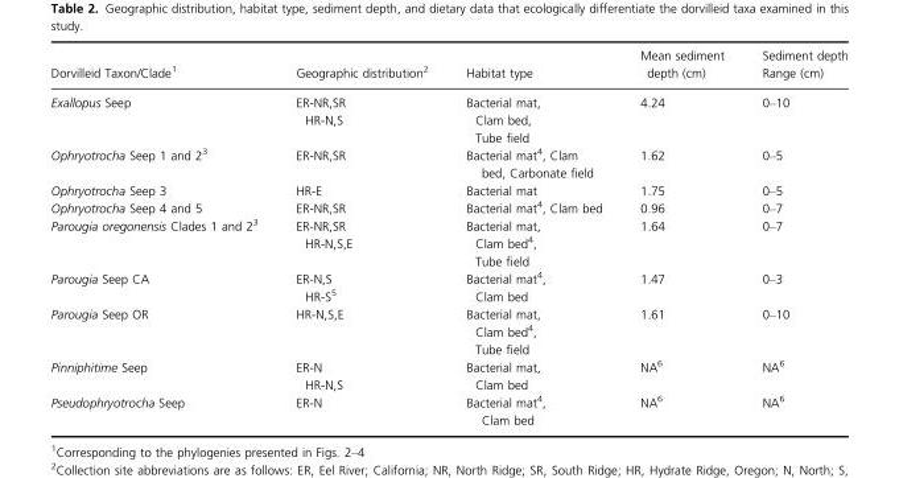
<table><thead><tr><td>Dorvilleid Taxon/Clade<sup>1</sup></td><td>Geographic distribution<sup>2</sup></td><td>Habitat type</td><td>Mean sediment depth (cm)</td><td>Sediment depth Range (cm)</td></tr></thead><tbody><tr><td>Exallopus Seep</td><td>ER-NR,SR HR-N,S</td><td>Bacterial mat, Clam bed, Tube field</td><td>4.24</td><td>0–10</td></tr><tr><td>Ophryotrocha Seep 1 and 2<sup>3</sup></td><td>ER-NR,SR</td><td>Bacterial mat<sup>4</sup>, Clam bed, Carbonate field</td><td>1.62</td><td>0–5</td></tr><tr><td>Ophryotrocha Seep 3</td><td>HR-E</td><td>Bacterial mat</td><td>1.75</td><td>0–5</td></tr><tr><td>Ophryotrocha Seep 4 and 5</td><td>ER-NR,SR</td><td>Bacterial mat<sup>4</sup>, Clam bed</td><td>0.96</td><td>0–7</td></tr><tr><td>Parougia oregonensis Clades 1 and 2<sup>3</sup></td><td>ER-NR,SR HR-N,S,E</td><td>Bacterial mat, Clam bed<sup>4</sup>, Tube field</td><td>1.64</td><td>0–7</td></tr><tr><td>Parougia Seep CA</td><td>ER-N,S HR-S<sup>5</sup></td><td>Bacterial mat<sup>4</sup>, Clam bed</td><td>1.47</td><td>0–3</td></tr><tr><td>Parougia Seep OR</td><td>HR-N,S,E</td><td>Bacterial mat, Clam bed<sup>4</sup>, Tube field</td><td>1.61</td><td>0–10</td></tr><tr><td>Pinniphitime Seep</td><td>ER-N HR-N,S</td><td>Bacterial mat, Clam bed</td><td>NA<sup>6</sup></td><td>NA<sup>6</sup></td></tr><tr><td>Pseudophryotrocha Seep</td><td>ER-N</td><td>Bacterial mat<sup>4</sup>, Clam bed</td><td>NA<sup>6</sup></td><td>NA<sup>6</sup></td></tr></tbody></table>